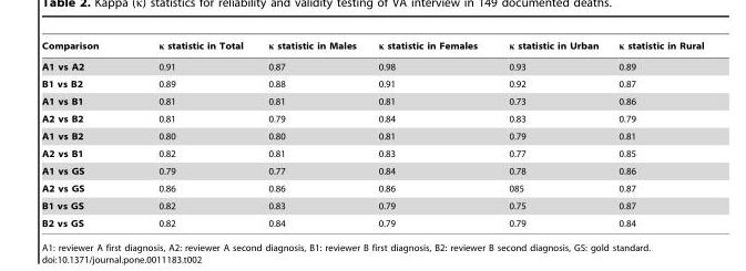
<table><thead><tr><td>Comparison</td><td>κ statistic in Total</td><td>κ statistic in Males</td><td>κ statistic in Females</td><td>κ statistic in Urban</td><td>κ statistic in Rural</td></tr></thead><tbody><tr><td>A1 vs A2</td><td>0.91</td><td>0.87</td><td>0.98</td><td>0.93</td><td>0.89</td></tr><tr><td>B1 vs B2</td><td>0.89</td><td>0.88</td><td>0.91</td><td>0.92</td><td>0.87</td></tr><tr><td>A1 vs B1</td><td>0.81</td><td>0.81</td><td>0.81</td><td>0.73</td><td>0.86</td></tr><tr><td>A2 vs B2</td><td>0.81</td><td>0.79</td><td>0.84</td><td>0.83</td><td>0.79</td></tr><tr><td>A1 vs B2</td><td>0.80</td><td>0.80</td><td>0.81</td><td>0.79</td><td>0.81</td></tr><tr><td>A2 vs B1</td><td>0.82</td><td>0.81</td><td>0.83</td><td>0.77</td><td>0.85</td></tr><tr><td>A1 vs GS</td><td>0.79</td><td>0.77</td><td>0.84</td><td>0.78</td><td>0.86</td></tr><tr><td>A2 vs GS</td><td>0.86</td><td>0.86</td><td>0.86</td><td>085</td><td>0.87</td></tr><tr><td>B1 vs GS</td><td>0.82</td><td>0.83</td><td>0.79</td><td>0.75</td><td>0.87</td></tr><tr><td>B2 vs GS</td><td>0.82</td><td>0.84</td><td>0.79</td><td>0.79</td><td>0.84</td></tr></tbody></table>